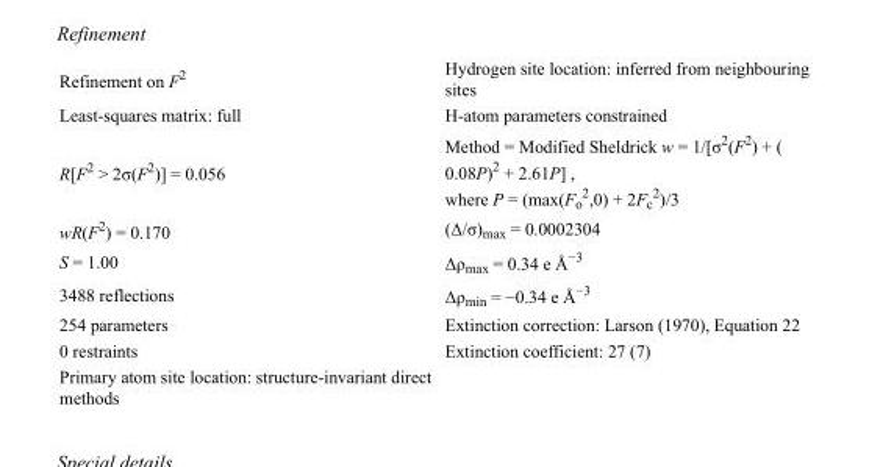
<table><tbody><tr><td>Refinement on F<sup>2</sup></td><td>Hydrogen site location: inferred from neighbouring sites</td></tr><tr><td>Least-squares matrix: full</td><td>H-atom parameters constrained</td></tr><tr><td>R[F<sup>2</sup> &gt; 2σ(F<sup>2</sup>)] = 0.056</td><td>Method = Modified Sheldrick w = 1/[σ<sup>2</sup>(F<sup>2</sup>) + ( 0.08P)<sup>2</sup> + 2.61P] , where P = (max(F<sub>o</sub> <sup>2</sup>,0) + 2F<sub>c</sub> <sup>2</sup>)/3</td></tr><tr><td>wR(F<sup>2</sup>) = 0.170</td><td>(Δ/σ)<sub>max</sub> = 0.0002304</td></tr><tr><td>S = 1.00</td><td>Δρ<sub>max</sub> = 0.34 e Å<sup>−3</sup></td></tr><tr><td>3488 reflections</td><td>Δρ<sub>min</sub> = −0.34 e Å<sup>−3</sup></td></tr><tr><td>254 parameters</td><td>Extinction correction: Larson (1970), Equation 22</td></tr><tr><td>0 restraints</td><td>Extinction coefficient: 27 (7)</td></tr><tr><td>Primary atom site location: structure-invariant direct methods</td><td></td></tr></tbody></table>